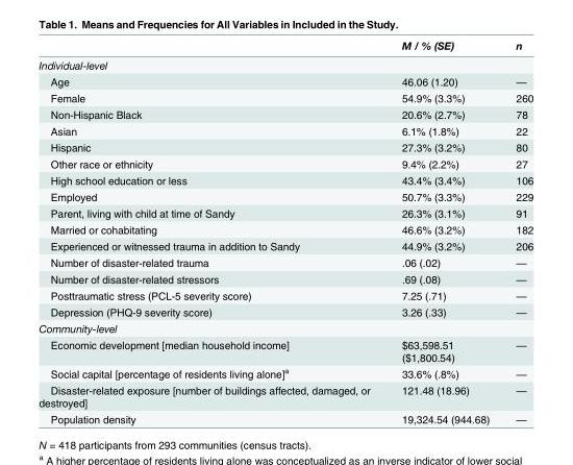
<table><thead><tr><td></td><td>M / % (SE)</td><td>n</td></tr></thead><tbody><tr><td colspan="3">Individual-level</td></tr><tr><td>Age</td><td>46.06 (1.20)</td><td>—</td></tr><tr><td>Female</td><td>54.9% (3.3%)</td><td>260</td></tr><tr><td>Non-Hispanic Black</td><td>20.6% (2.7%)</td><td>78</td></tr><tr><td>Asian</td><td>6.1% (1.8%)</td><td>22</td></tr><tr><td>Hispanic</td><td>27.3% (3.2%)</td><td>80</td></tr><tr><td>Other race or ethnicity</td><td>9.4% (2.2%)</td><td>27</td></tr><tr><td>High school education or less</td><td>43.4% (3.4%)</td><td>106</td></tr><tr><td>Employed</td><td>50.7% (3.3%)</td><td>229</td></tr><tr><td>Parent, living with child at time of Sandy</td><td>26.3% (3.1%)</td><td>91</td></tr><tr><td>Married or cohabitating</td><td>46.6% (3.2%)</td><td>182</td></tr><tr><td>Experienced or witnessed trauma in addition to Sandy</td><td>44.9% (3.2%)</td><td>206</td></tr><tr><td>Number of disaster-related trauma</td><td>.06 (.02)</td><td>—</td></tr><tr><td>Number of disaster-related stressors</td><td>.69 (.08)</td><td>—</td></tr><tr><td>Posttraumatic stress (PCL-5 severity score)</td><td>7.25 (.71)</td><td>—</td></tr><tr><td>Depression (PHQ-9 severity score)</td><td>3.26 (.33)</td><td>—</td></tr><tr><td colspan="3">Community-level</td></tr><tr><td>Economic development [median household income]</td><td>$63,598.51 ($1,800.54)</td><td>—</td></tr><tr><td>Social capital [percentage of residents living alone]<sup>a</sup></td><td>33.6% (.8%)</td><td>—</td></tr><tr><td>Disaster-related exposure [number of buildings affected, damaged, or destroyed]</td><td>121.48 (18.96)</td><td>—</td></tr><tr><td>Population density</td><td>19,324.54 (944.68)</td><td>—</td></tr></tbody></table>